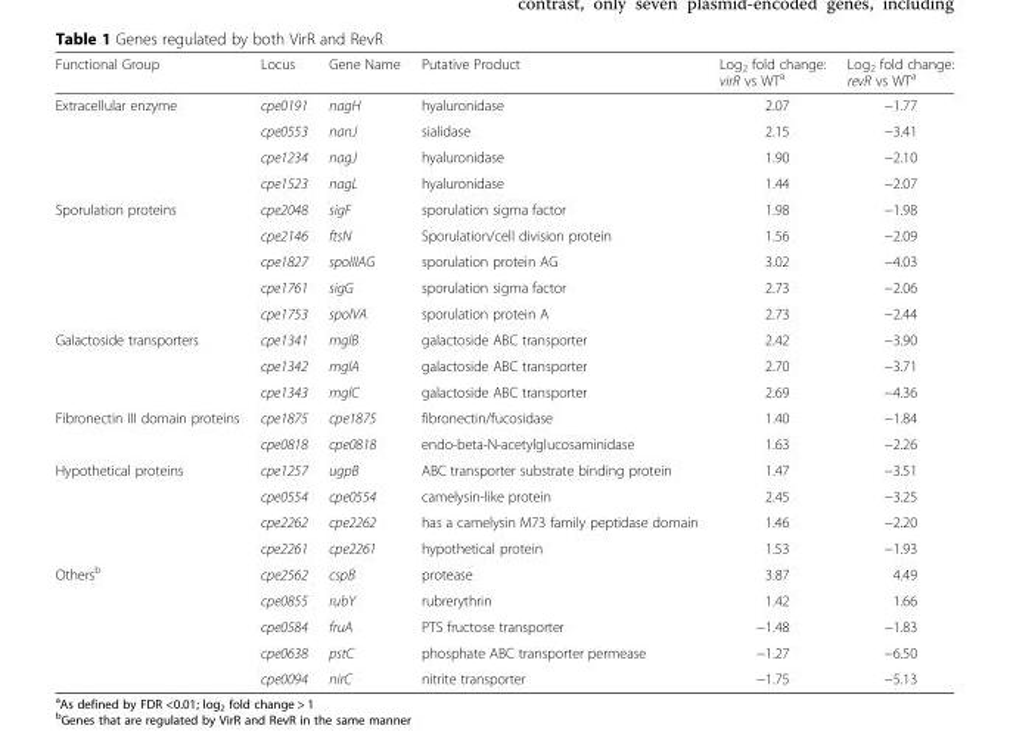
<table><thead><tr><td>Functional Group</td><td>Locus</td><td>Gene Name</td><td>Putative Product</td><td>Log<sub>2</sub> fold change: virR vs WT<sup>a</sup></td><td>Log<sub>2</sub> fold change: revR vs WT<sup>a</sup></td></tr></thead><tbody><tr><td rowspan="4">Extracellular enzyme</td><td>cpe0191</td><td>nagH</td><td>hyaluronidase</td><td>2.07</td><td>−1.77</td></tr><tr><td>cpe0553</td><td>nanJ</td><td>sialidase</td><td>2.15</td><td>−3.41</td></tr><tr><td>cpe1234</td><td>nagJ</td><td>hyaluronidase</td><td>1.90</td><td>−2.10</td></tr><tr><td>cpe1523</td><td>nagL</td><td>hyaluronidase</td><td>1.44</td><td>−2.07</td></tr><tr><td rowspan="5">Sporulation proteins</td><td>cpe2048</td><td>sigF</td><td>sporulation sigma factor</td><td>1.98</td><td>−1.98</td></tr><tr><td>cpe2146</td><td>ftsN</td><td>Sporulation/cell division protein</td><td>1.56</td><td>−2.09</td></tr><tr><td>cpe1827</td><td>spoIIIAG</td><td>sporulation protein AG</td><td>3.02</td><td>−4.03</td></tr><tr><td>cpe1761</td><td>sigG</td><td>sporulation sigma factor</td><td>2.73</td><td>−2.06</td></tr><tr><td>cpe1753</td><td>spoIVA</td><td>sporulation protein A</td><td>2.73</td><td>−2.44</td></tr><tr><td rowspan="3">Galactoside transporters</td><td>cpe1341</td><td>mglB</td><td>galactoside ABC transporter</td><td>2.42</td><td>−3.90</td></tr><tr><td>cpe1342</td><td>mglA</td><td>galactoside ABC transporter</td><td>2.70</td><td>−3.71</td></tr><tr><td>cpe1343</td><td>mglC</td><td>galactoside ABC transporter</td><td>2.69</td><td>−4.36</td></tr><tr><td rowspan="2">Fibronectin III domain proteins</td><td>cpe1875</td><td>cpe1875</td><td>fibronectin/fucosidase</td><td>1.40</td><td>−1.84</td></tr><tr><td>cpe0818</td><td>cpe0818</td><td>endo-beta-N-acetylglucosaminidase</td><td>1.63</td><td>−2.26</td></tr><tr><td rowspan="4">Hypothetical proteins</td><td>cpe1257</td><td>ugpB</td><td>ABC transporter substrate binding protein</td><td>1.47</td><td>−3.51</td></tr><tr><td>cpe0554</td><td>cpe0554</td><td>camelysin-like protein</td><td>2.45</td><td>−3.25</td></tr><tr><td>cpe2262</td><td>cpe2262</td><td>has a camelysin M73 family peptidase domain</td><td>1.46</td><td>−2.20</td></tr><tr><td>cpe2261</td><td>cpe2261</td><td>hypothetical protein</td><td>1.53</td><td>−1.93</td></tr><tr><td rowspan="5">Others<sup>b</sup></td><td>cpe2562</td><td>cspB</td><td>protease</td><td>3.87</td><td>4.49</td></tr><tr><td>cpe0855</td><td>rubY</td><td>rubrerythrin</td><td>1.42</td><td>1.66</td></tr><tr><td>cpe0584</td><td>fruA</td><td>PTS fructose transporter</td><td>−1.48</td><td>−1.83</td></tr><tr><td>cpe0638</td><td>pstC</td><td>phosphate ABC transporter permease</td><td>−1.27</td><td>−6.50</td></tr><tr><td>cpe0094</td><td>nirC</td><td>nitrite transporter</td><td>−1.75</td><td>−5.13</td></tr></tbody></table>